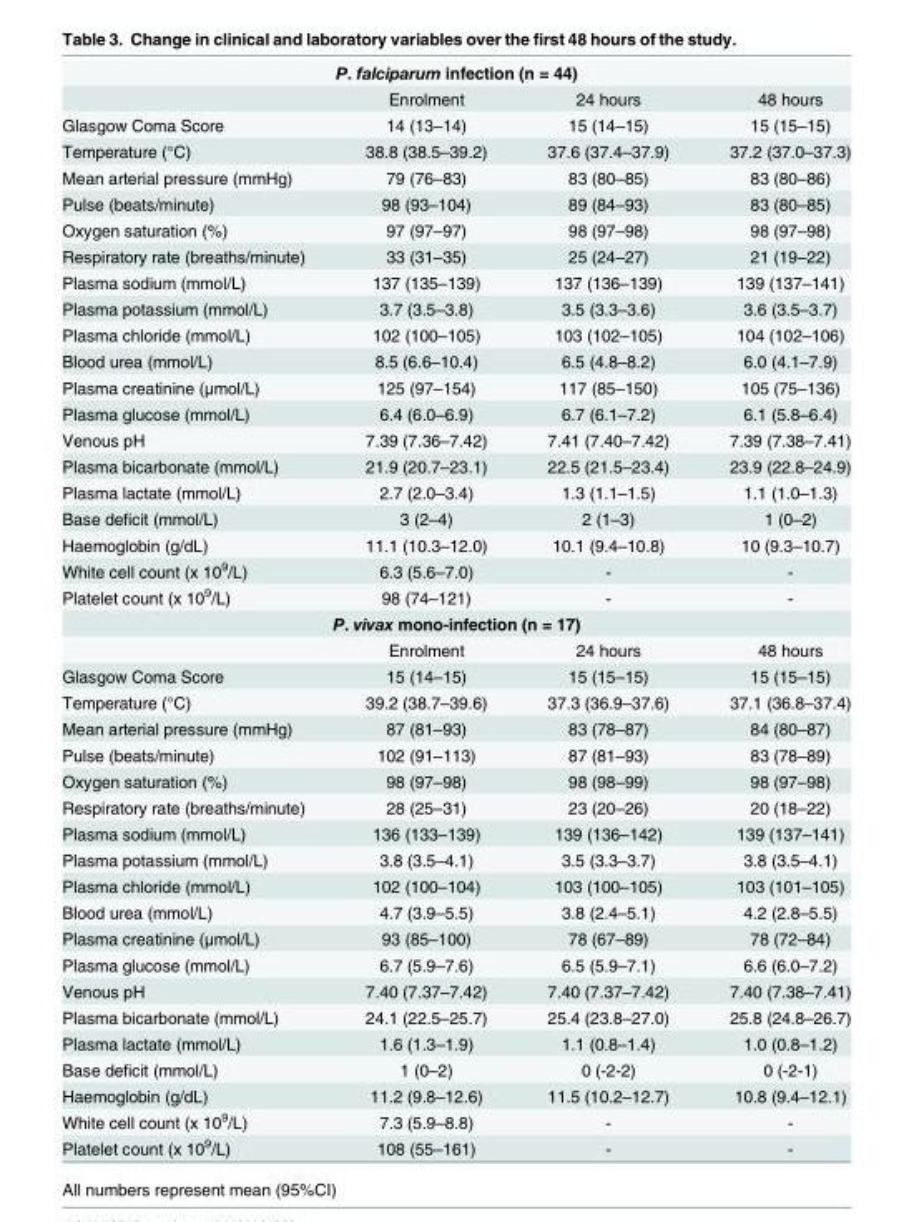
<table><tbody><tr><td colspan="4">P. falciparum infection (n = 44)</td></tr><tr><td></td><td>Enrolment</td><td>24 hours</td><td>48 hours</td></tr><tr><td>Glasgow Coma Score</td><td>14 (13–14)</td><td>15 (14–15)</td><td>15 (15–15)</td></tr><tr><td>Temperature (°C)</td><td>38.8 (38.5–39.2)</td><td>37.6 (37.4–37.9)</td><td>37.2 (37.0–37.3)</td></tr><tr><td>Mean arterial pressure (mmHg)</td><td>79 (76–83)</td><td>83 (80–85)</td><td>83 (80–86)</td></tr><tr><td>Pulse (beats/minute)</td><td>98 (93–104)</td><td>89 (84–93)</td><td>83 (80–85)</td></tr><tr><td>Oxygen saturation (%)</td><td>97 (97–97)</td><td>98 (97–98)</td><td>98 (97–98)</td></tr><tr><td>Respiratory rate (breaths/minute)</td><td>33 (31–35)</td><td>25 (24–27)</td><td>21 (19–22)</td></tr><tr><td>Plasma sodium (mmol/L)</td><td>137 (135–139)</td><td>137 (136–139)</td><td>139 (137–141)</td></tr><tr><td>Plasma potassium (mmol/L)</td><td>3.7 (3.5–3.8)</td><td>3.5 (3.3–3.6)</td><td>3.6 (3.5–3.7)</td></tr><tr><td>Plasma chloride (mmol/L)</td><td>102 (100–105)</td><td>103 (102–105)</td><td>104 (102–106)</td></tr><tr><td>Blood urea (mmol/L)</td><td>8.5 (6.6–10.4)</td><td>6.5 (4.8–8.2)</td><td>6.0 (4.1–7.9)</td></tr><tr><td>Plasma creatinine (μmol/L)</td><td>125 (97–154)</td><td>117 (85–150)</td><td>105 (75–136)</td></tr><tr><td>Plasma glucose (mmol/L)</td><td>6.4 (6.0–6.9)</td><td>6.7 (6.1–7.2)</td><td>6.1 (5.8–6.4)</td></tr><tr><td>Venous pH</td><td>7.39 (7.36–7.42)</td><td>7.41 (7.40–7.42)</td><td>7.39 (7.38–7.41)</td></tr><tr><td>Plasma bicarbonate (mmol/L)</td><td>21.9 (20.7–23.1)</td><td>22.5 (21.5–23.4)</td><td>23.9 (22.8–24.9)</td></tr><tr><td>Plasma lactate (mmol/L)</td><td>2.7 (2.0–3.4)</td><td>1.3 (1.1–1.5)</td><td>1.1 (1.0–1.3)</td></tr><tr><td>Base deficit (mmol/L)</td><td>3 (2–4)</td><td>2 (1–3)</td><td>1 (0–2)</td></tr><tr><td>Haemoglobin (g/dL)</td><td>11.1 (10.3–12.0)</td><td>10.1 (9.4–10.8)</td><td>10 (9.3–10.7)</td></tr><tr><td>White cell count (x 10<sup>9</sup>/L)</td><td>6.3 (5.6–7.0)</td><td>-</td><td>-</td></tr><tr><td>Platelet count (x 10<sup>9</sup>/L)</td><td>98 (74–121)</td><td>-</td><td>-</td></tr><tr><td colspan="4">P. vivax mono-infection (n = 17)</td></tr><tr><td></td><td>Enrolment</td><td>24 hours</td><td>48 hours</td></tr><tr><td>Glasgow Coma Score</td><td>15 (14–15)</td><td>15 (15–15)</td><td>15 (15–15)</td></tr><tr><td>Temperature (°C)</td><td>39.2 (38.7–39.6)</td><td>37.3 (36.9–37.6)</td><td>37.1 (36.8–37.4)</td></tr><tr><td>Mean arterial pressure (mmHg)</td><td>87 (81–93)</td><td>83 (78–87)</td><td>84 (80–87)</td></tr><tr><td>Pulse (beats/minute)</td><td>102 (91–113)</td><td>87 (81–93)</td><td>83 (78–89)</td></tr><tr><td>Oxygen saturation (%)</td><td>98 (97–98)</td><td>98 (98–99)</td><td>98 (97–98)</td></tr><tr><td>Respiratory rate (breaths/minute)</td><td>28 (25–31)</td><td>23 (20–26)</td><td>20 (18–22)</td></tr><tr><td>Plasma sodium (mmol/L)</td><td>136 (133–139)</td><td>139 (136–142)</td><td>139 (137–141)</td></tr><tr><td>Plasma potassium (mmol/L)</td><td>3.8 (3.5–4.1)</td><td>3.5 (3.3–3.7)</td><td>3.8 (3.5–4.1)</td></tr><tr><td>Plasma chloride (mmol/L)</td><td>102 (100–104)</td><td>103 (100–105)</td><td>103 (101–105)</td></tr><tr><td>Blood urea (mmol/L)</td><td>4.7 (3.9–5.5)</td><td>3.8 (2.4–5.1)</td><td>4.2 (2.8–5.5)</td></tr><tr><td>Plasma creatinine (μmol/L)</td><td>93 (85–100)</td><td>78 (67–89)</td><td>78 (72–84)</td></tr><tr><td>Plasma glucose (mmol/L)</td><td>6.7 (5.9–7.6)</td><td>6.5 (5.9–7.1)</td><td>6.6 (6.0–7.2)</td></tr><tr><td>Venous pH</td><td>7.40 (7.37–7.42)</td><td>7.40 (7.37–7.42)</td><td>7.40 (7.38–7.41)</td></tr><tr><td>Plasma bicarbonate (mmol/L)</td><td>24.1 (22.5–25.7)</td><td>25.4 (23.8–27.0)</td><td>25.8 (24.8–26.7)</td></tr><tr><td>Plasma lactate (mmol/L)</td><td>1.6 (1.3–1.9)</td><td>1.1 (0.8–1.4)</td><td>1.0 (0.8–1.2)</td></tr><tr><td>Base deficit (mmol/L)</td><td>1 (0–2)</td><td>0 (-2-2)</td><td>0 (-2-1)</td></tr><tr><td>Haemoglobin (g/dL)</td><td>11.2 (9.8–12.6)</td><td>11.5 (10.2–12.7)</td><td>10.8 (9.4–12.1)</td></tr><tr><td>White cell count (x 10<sup>9</sup>/L)</td><td>7.3 (5.9–8.8)</td><td>-</td><td>-</td></tr><tr><td>Platelet count (x 10<sup>9</sup>/L)</td><td>108 (55–161)</td><td>-</td><td>-</td></tr></tbody></table>